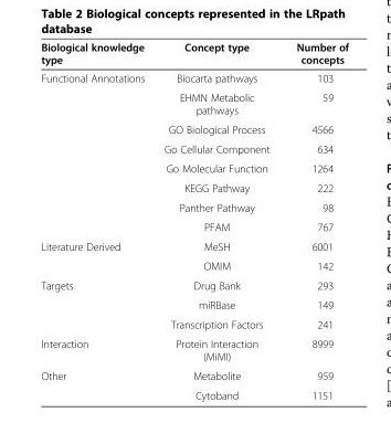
<table><thead><tr><td>Biological knowledge type</td><td>Concept type</td><td>Number of concepts</td></tr></thead><tbody><tr><td rowspan="8">Functional Annotations</td><td>Biocarta pathways</td><td>103</td></tr><tr><td>EHMN Metabolic pathways</td><td>59</td></tr><tr><td>GO Biological Process</td><td>4566</td></tr><tr><td>Go Cellular Component</td><td>634</td></tr><tr><td>Go Molecular Function</td><td>1264</td></tr><tr><td>KEGG Pathway</td><td>222</td></tr><tr><td>Panther Pathway</td><td>98</td></tr><tr><td>PFAM</td><td>767</td></tr><tr><td rowspan="2">Literature Derived</td><td>MeSH</td><td>6001</td></tr><tr><td>OMIM</td><td>142</td></tr><tr><td rowspan="3">Targets</td><td>Drug Bank</td><td>293</td></tr><tr><td>miRBase</td><td>149</td></tr><tr><td>Transcription Factors</td><td>241</td></tr><tr><td>Interaction</td><td>Protein Interaction (MiMI)</td><td>8999</td></tr><tr><td rowspan="2">Other</td><td>Metabolite</td><td>959</td></tr><tr><td>Cytoband</td><td>1151</td></tr></tbody></table>